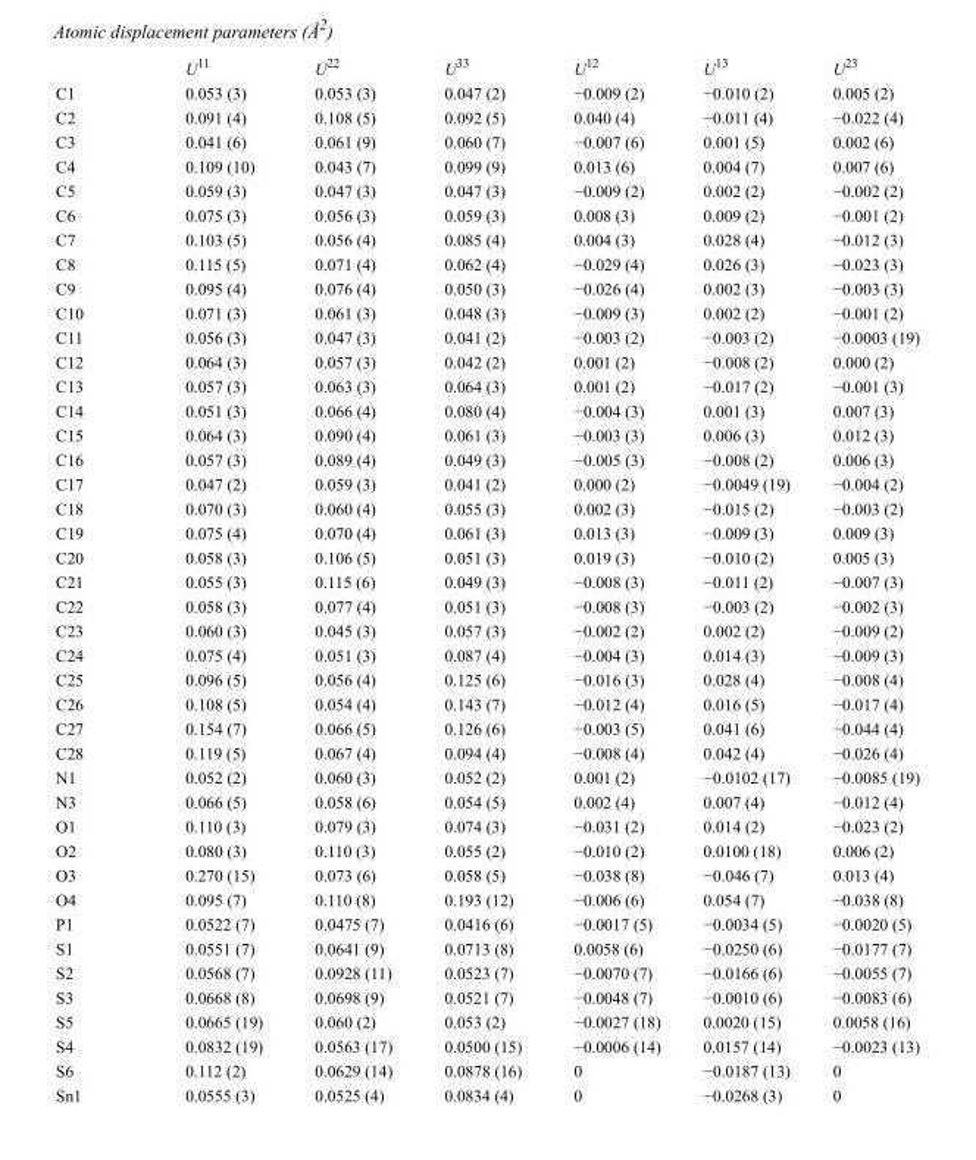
<table><thead><tr><td></td><td>U<sup>11</sup></td><td>U<sup>22</sup></td><td>U<sup>33</sup></td><td>U<sup>12</sup></td><td>U<sup>13</sup></td><td>U<sup>23</sup></td></tr></thead><tbody><tr><td>C1</td><td>0.053 (3)</td><td>0.053 (3)</td><td>0.047 (2)</td><td>−0.009 (2)</td><td>−0.010 (2)</td><td>0.005 (2)</td></tr><tr><td>C2</td><td>0.091 (4)</td><td>0.108 (5)</td><td>0.092 (5)</td><td>0.040 (4)</td><td>−0.011 (4)</td><td>−0.022 (4)</td></tr><tr><td>C3</td><td>0.041 (6)</td><td>0.061 (9)</td><td>0.060 (7)</td><td>−0.007 (6)</td><td>0.001 (5)</td><td>0.002 (6)</td></tr><tr><td>C4</td><td>0.109 (10)</td><td>0.043 (7)</td><td>0.099 (9)</td><td>0.013 (6)</td><td>0.004 (7)</td><td>0.007 (6)</td></tr><tr><td>C5</td><td>0.059 (3)</td><td>0.047 (3)</td><td>0.047 (3)</td><td>−0.009 (2)</td><td>0.002 (2)</td><td>−0.002 (2)</td></tr><tr><td>C6</td><td>0.075 (3)</td><td>0.056 (3)</td><td>0.059 (3)</td><td>0.008 (3)</td><td>0.009 (2)</td><td>−0.001 (2)</td></tr><tr><td>C7</td><td>0.103 (5)</td><td>0.056 (4)</td><td>0.085 (4)</td><td>0.004 (3)</td><td>0.028 (4)</td><td>−0.012 (3)</td></tr><tr><td>C8</td><td>0.115 (5)</td><td>0.071 (4)</td><td>0.062 (4)</td><td>−0.029 (4)</td><td>0.026 (3)</td><td>−0.023 (3)</td></tr><tr><td>C9</td><td>0.095 (4)</td><td>0.076 (4)</td><td>0.050 (3)</td><td>−0.026 (4)</td><td>0.002 (3)</td><td>−0.003 (3)</td></tr><tr><td>C10</td><td>0.071 (3)</td><td>0.061 (3)</td><td>0.048 (3)</td><td>−0.009 (3)</td><td>0.002 (2)</td><td>−0.001 (2)</td></tr><tr><td>C11</td><td>0.056 (3)</td><td>0.047 (3)</td><td>0.041 (2)</td><td>−0.003 (2)</td><td>−0.003 (2)</td><td>−0.0003 (19)</td></tr><tr><td>C12</td><td>0.064 (3)</td><td>0.057 (3)</td><td>0.042 (2)</td><td>0.001 (2)</td><td>−0.008 (2)</td><td>0.000 (2)</td></tr><tr><td>C13</td><td>0.057 (3)</td><td>0.063 (3)</td><td>0.064 (3)</td><td>0.001 (2)</td><td>−0.017 (2)</td><td>−0.001 (3)</td></tr><tr><td>C14</td><td>0.051 (3)</td><td>0.066 (4)</td><td>0.080 (4)</td><td>−0.004 (3)</td><td>0.001 (3)</td><td>0.007 (3)</td></tr><tr><td>C15</td><td>0.064 (3)</td><td>0.090 (4)</td><td>0.061 (3)</td><td>−0.003 (3)</td><td>0.006 (3)</td><td>0.012 (3)</td></tr><tr><td>C16</td><td>0.057 (3)</td><td>0.089 (4)</td><td>0.049 (3)</td><td>−0.005 (3)</td><td>−0.008 (2)</td><td>0.006 (3)</td></tr><tr><td>C17</td><td>0.047 (2)</td><td>0.059 (3)</td><td>0.041 (2)</td><td>0.000 (2)</td><td>−0.0049 (19)</td><td>−0.004 (2)</td></tr><tr><td>C18</td><td>0.070 (3)</td><td>0.060 (4)</td><td>0.055 (3)</td><td>0.002 (3)</td><td>−0.015 (2)</td><td>−0.003 (2)</td></tr><tr><td>C19</td><td>0.075 (4)</td><td>0.070 (4)</td><td>0.061 (3)</td><td>0.013 (3)</td><td>−0.009 (3)</td><td>0.009 (3)</td></tr><tr><td>C20</td><td>0.058 (3)</td><td>0.106 (5)</td><td>0.051 (3)</td><td>0.019 (3)</td><td>−0.010 (2)</td><td>0.005 (3)</td></tr><tr><td>C21</td><td>0.055 (3)</td><td>0.115 (6)</td><td>0.049 (3)</td><td>−0.008 (3)</td><td>−0.011 (2)</td><td>−0.007 (3)</td></tr><tr><td>C22</td><td>0.058 (3)</td><td>0.077 (4)</td><td>0.051 (3)</td><td>−0.008 (3)</td><td>−0.003 (2)</td><td>−0.002 (3)</td></tr><tr><td>C23</td><td>0.060 (3)</td><td>0.045 (3)</td><td>0.057 (3)</td><td>−0.002 (2)</td><td>0.002 (2)</td><td>−0.009 (2)</td></tr><tr><td>C24</td><td>0.075 (4)</td><td>0.051 (3)</td><td>0.087 (4)</td><td>−0.004 (3)</td><td>0.014 (3)</td><td>−0.009 (3)</td></tr><tr><td>C25</td><td>0.096 (5)</td><td>0.056 (4)</td><td>0.125 (6)</td><td>−0.016 (3)</td><td>0.028 (4)</td><td>−0.008 (4)</td></tr><tr><td>C26</td><td>0.108 (5)</td><td>0.054 (4)</td><td>0.143 (7)</td><td>−0.012 (4)</td><td>0.016 (5)</td><td>−0.017 (4)</td></tr><tr><td>C27</td><td>0.154 (7)</td><td>0.066 (5)</td><td>0.126 (6)</td><td>−0.003 (5)</td><td>0.041 (6)</td><td>−0.044 (4)</td></tr><tr><td>C28</td><td>0.119 (5)</td><td>0.067 (4)</td><td>0.094 (4)</td><td>−0.008 (4)</td><td>0.042 (4)</td><td>−0.026 (4)</td></tr><tr><td>N1</td><td>0.052 (2)</td><td>0.060 (3)</td><td>0.052 (2)</td><td>0.001 (2)</td><td>−0.0102 (17)</td><td>−0.0085 (19)</td></tr><tr><td>N3</td><td>0.066 (5)</td><td>0.058 (6)</td><td>0.054 (5)</td><td>0.002 (4)</td><td>0.007 (4)</td><td>−0.012 (4)</td></tr><tr><td>O1</td><td>0.110 (3)</td><td>0.079 (3)</td><td>0.074 (3)</td><td>−0.031 (2)</td><td>0.014 (2)</td><td>−0.023 (2)</td></tr><tr><td>O2</td><td>0.080 (3)</td><td>0.110 (3)</td><td>0.055 (2)</td><td>−0.010 (2)</td><td>0.0100 (18)</td><td>0.006 (2)</td></tr><tr><td>O3</td><td>0.270 (15)</td><td>0.073 (6)</td><td>0.058 (5)</td><td>−0.038 (8)</td><td>−0.046 (7)</td><td>0.013 (4)</td></tr><tr><td>O4</td><td>0.095 (7)</td><td>0.110 (8)</td><td>0.193 (12)</td><td>−0.006 (6)</td><td>0.054 (7)</td><td>−0.038 (8)</td></tr><tr><td>P1</td><td>0.0522 (7)</td><td>0.0475 (7)</td><td>0.0416 (6)</td><td>−0.0017 (5)</td><td>−0.0034 (5)</td><td>−0.0020 (5)</td></tr><tr><td>S1</td><td>0.0551 (7)</td><td>0.0641 (9)</td><td>0.0713 (8)</td><td>0.0058 (6)</td><td>−0.0250 (6)</td><td>−0.0177 (7)</td></tr><tr><td>S2</td><td>0.0568 (7)</td><td>0.0928 (11)</td><td>0.0523 (7)</td><td>−0.0070 (7)</td><td>−0.0166 (6)</td><td>−0.0055 (7)</td></tr><tr><td>S3</td><td>0.0668 (8)</td><td>0.0698 (9)</td><td>0.0521 (7)</td><td>−0.0048 (7)</td><td>−0.0010 (6)</td><td>−0.0083 (6)</td></tr><tr><td>S5</td><td>0.0665 (19)</td><td>0.060 (2)</td><td>0.053 (2)</td><td>−0.0027 (18)</td><td>0.0020 (15)</td><td>0.0058 (16)</td></tr><tr><td>S4</td><td>0.0832 (19)</td><td>0.0563 (17)</td><td>0.0500 (15)</td><td>−0.0006 (14)</td><td>0.0157 (14)</td><td>−0.0023 (13)</td></tr><tr><td>S6</td><td>0.112 (2)</td><td>0.0629 (14)</td><td>0.0878 (16)</td><td>0</td><td>−0.0187 (13)</td><td>0</td></tr><tr><td>Sn1</td><td>0.0555 (3)</td><td>0.0525 (4)</td><td>0.0834 (4)</td><td>0</td><td>−0.0268 (3)</td><td>0</td></tr></tbody></table>